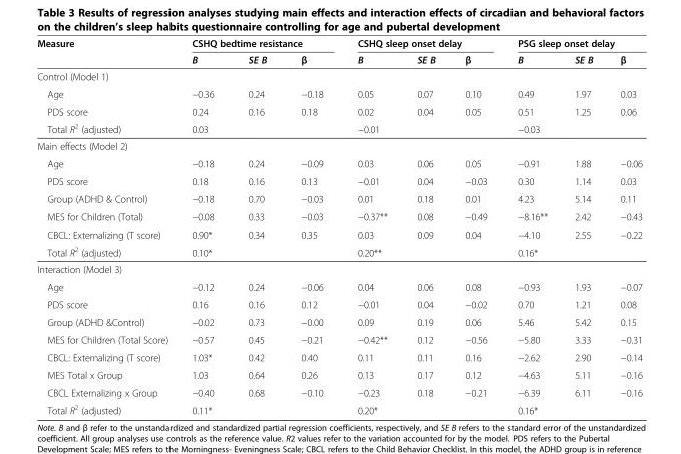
<table><thead><tr><td rowspan="2">Measure</td><td colspan="3">CSHQ bedtime resistance</td><td colspan="3">CSHQ sleep onset delay</td><td colspan="3">PSG sleep onset delay</td></tr><tr><td>B</td><td>SE B</td><td>β</td><td>B</td><td>SE B</td><td>β</td><td>B</td><td>SE B</td><td>β</td></tr></thead><tbody><tr><td colspan="10">Control (Model 1)</td></tr><tr><td>Age</td><td>−0.36</td><td>0.24</td><td>−0.18</td><td>0.05</td><td>0.07</td><td>0.10</td><td>0.49</td><td>1.97</td><td>0.03</td></tr><tr><td>PDS score</td><td>0.24</td><td>0.16</td><td>0.18</td><td>0.02</td><td>0.04</td><td>0.05</td><td>0.51</td><td>1.25</td><td>0.06</td></tr><tr><td>Total R<sup>2</sup> (adjusted)</td><td>0.03</td><td></td><td></td><td>−0.01</td><td></td><td></td><td>−0.03</td><td></td><td></td></tr><tr><td colspan="10">Main effects (Model 2)</td></tr><tr><td>Age</td><td>−0.18</td><td>0.24</td><td>−0.09</td><td>0.03</td><td>0.06</td><td>0.05</td><td>−0.91</td><td>1.88</td><td>−0.06</td></tr><tr><td>PDS score</td><td>0.18</td><td>0.16</td><td>0.13</td><td>−0.01</td><td>0.04</td><td>−0.03</td><td>0.30</td><td>1.14</td><td>0.03</td></tr><tr><td>Group (ADHD &amp; Control)</td><td>−0.18</td><td>0.70</td><td>−0.03</td><td>0.01</td><td>0.18</td><td>0.01</td><td>4.23</td><td>5.14</td><td>0.11</td></tr><tr><td>MES for Children (Total)</td><td>−0.08</td><td>0.33</td><td>−0.03</td><td>−0.37**</td><td>0.08</td><td>−0.49</td><td>−8.16**</td><td>2.42</td><td>−0.43</td></tr><tr><td>CBCL: Externalizing (T score)</td><td>0.90*</td><td>0.34</td><td>0.35</td><td>0.03</td><td>0.09</td><td>0.04</td><td>−4.10</td><td>2.55</td><td>−0.22</td></tr><tr><td>Total R<sup>2</sup> (adjusted)</td><td>0.10*</td><td></td><td></td><td>0.20**</td><td></td><td></td><td>0.16*</td><td></td><td></td></tr><tr><td colspan="10">Interaction (Model 3)</td></tr><tr><td>Age</td><td>−0.12</td><td>0.24</td><td>−0.06</td><td>0.04</td><td>0.06</td><td>0.08</td><td>−0.93</td><td>1.93</td><td>−0.07</td></tr><tr><td>PDS score</td><td>0.16</td><td>0.16</td><td>0.12</td><td>−0.01</td><td>0.04</td><td>−0.02</td><td>0.70</td><td>1.21</td><td>0.08</td></tr><tr><td>Group (ADHD &amp;Control)</td><td>−0.02</td><td>0.73</td><td>−0.00</td><td>0.09</td><td>0.19</td><td>0.06</td><td>5.46</td><td>5.42</td><td>0.15</td></tr><tr><td>MES for Children (Total Score)</td><td>−0.57</td><td>0.45</td><td>−0.21</td><td>−0.42**</td><td>0.12</td><td>−0.56</td><td>−5.80</td><td>3.33</td><td>−0.31</td></tr><tr><td>CBCL: Externalizing (T score)</td><td>1.03*</td><td>0.42</td><td>0.40</td><td>0.11</td><td>0.11</td><td>0.16</td><td>−2.62</td><td>2.90</td><td>−0.14</td></tr><tr><td>MES Total x Group</td><td>1.03</td><td>0.64</td><td>0.26</td><td>0.13</td><td>0.17</td><td>0.12</td><td>−4.63</td><td>5.11</td><td>−0.16</td></tr><tr><td>CBCL Externalizing x Group</td><td>−0.40</td><td>0.68</td><td>−0.10</td><td>−0.23</td><td>0.18</td><td>−0.21</td><td>−6.39</td><td>6.11</td><td>−0.16</td></tr><tr><td>Total R<sup>2</sup> (adjusted)</td><td>0.11*</td><td></td><td></td><td>0.20*</td><td></td><td></td><td>0.16*</td><td></td><td></td></tr></tbody></table>